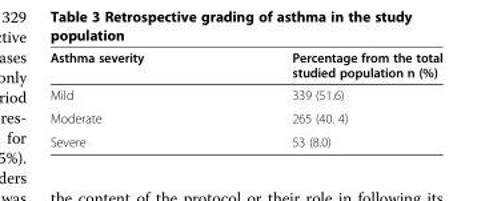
<table><thead><tr><td>Asthma severity</td><td>Percentage from the total studied population n (%)</td></tr></thead><tbody><tr><td>Mild</td><td>339 (51.6)</td></tr><tr><td>Moderate</td><td>265 (40. 4)</td></tr><tr><td>Severe</td><td>53 (8.0)</td></tr></tbody></table>